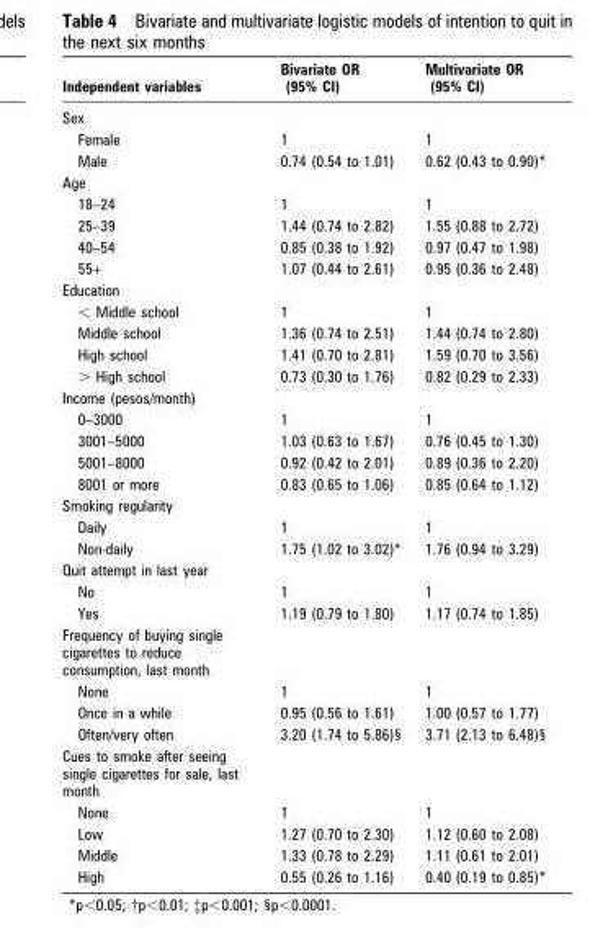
<table><thead><tr><td>Independent variables</td><td>Bivariate OR (95% CI)</td><td>Multivariate OR (95% CI)</td></tr></thead><tbody><tr><td colspan="3">Sex</td></tr><tr><td>Female</td><td>1</td><td>1</td></tr><tr><td>Male</td><td>0.74 (0.54 to 1.01)</td><td>0.62 (0.43 to 0.90)*</td></tr><tr><td colspan="3">Age</td></tr><tr><td>18–24</td><td>1</td><td>1</td></tr><tr><td>25–39</td><td>1.44 (0.74 to 2.82)</td><td>1.55 (0.88 to 2.72)</td></tr><tr><td>40–54</td><td>0.85 (0.38 to 1.92)</td><td>0.97 (0.47 to 1.98)</td></tr><tr><td>55+</td><td>1.07 (0.44 to 2.61)</td><td>0.95 (0.36 to 2.48)</td></tr><tr><td colspan="3">Education</td></tr><tr><td>&lt; Middle school</td><td>1</td><td>1</td></tr><tr><td>Middle school</td><td>1.36 (0.74 to 2.51)</td><td>1.44 (0.74 to 2.80)</td></tr><tr><td>High school</td><td>1.41 (0.70 to 2.81)</td><td>1.59 (0.70 to 3.56)</td></tr><tr><td>&gt; High school</td><td>0.73 (0.30 to 1.76)</td><td>0.82 (0.29 to 2.33)</td></tr><tr><td colspan="3">Income (pesos/month)</td></tr><tr><td>0–3000</td><td>1</td><td>1</td></tr><tr><td>3001–5000</td><td>1.03 (0.63 to 1.67)</td><td>0.76 (0.45 to 1.30)</td></tr><tr><td>5001–8000</td><td>0.92 (0.42 to 2.01)</td><td>0.89 (0.36 to 2.20)</td></tr><tr><td>8001 or more</td><td>0.83 (0.65 to 1.06)</td><td>0.85 (0.64 to 1.12)</td></tr><tr><td colspan="3">Smoking regularity</td></tr><tr><td>Daily</td><td>1</td><td>1</td></tr><tr><td>Non-daily</td><td>1.75 (1.02 to 3.02)*</td><td>1.76 (0.94 to 3.29)</td></tr><tr><td colspan="3">Quit attempt in last year</td></tr><tr><td>No</td><td>1</td><td>1</td></tr><tr><td>Yes</td><td>1.19 (0.79 to 1.80)</td><td>1.17 (0.74 to 1.85)</td></tr><tr><td colspan="3">Frequency of buying single cigarettes to reduce consumption, last month</td></tr><tr><td>None</td><td>1</td><td>1</td></tr><tr><td>Once in a while</td><td>0.95 (0.56 to 1.61)</td><td>1.00 (0.57 to 1.77)</td></tr><tr><td>Often/very often</td><td>3.20 (1.74 to 5.86)§</td><td>3.71 (2.13 to 6.48)§</td></tr><tr><td colspan="3">Cues to smoke after seeing single cigarettes for sale, last month</td></tr><tr><td>None</td><td>1</td><td>1</td></tr><tr><td>Low</td><td>1.27 (0.70 to 2.30)</td><td>1.12 (0.60 to 2.08)</td></tr><tr><td>Middle</td><td>1.33 (0.78 to 2.29)</td><td>1.11 (0.61 to 2.01)</td></tr><tr><td>High</td><td>0.55 (0.26 to 1.16)</td><td>0.40 (0.19 to 0.85)*</td></tr></tbody></table>